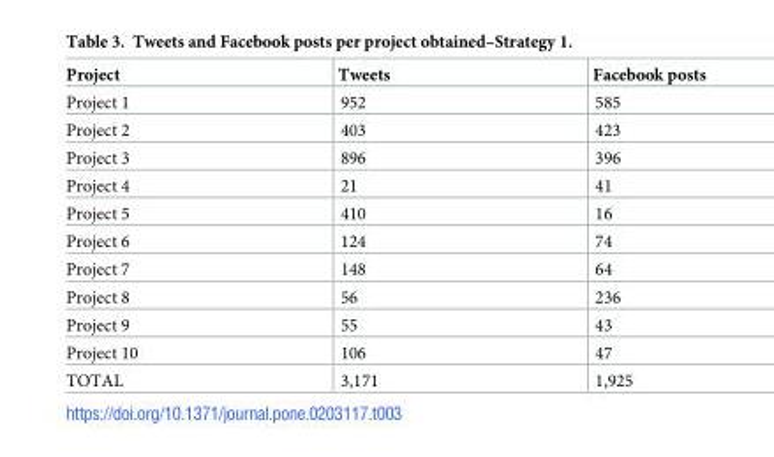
<table><thead><tr><td>Project</td><td>Tweets</td><td>Facebook posts</td></tr></thead><tbody><tr><td>Project 1</td><td>952</td><td>585</td></tr><tr><td>Project 2</td><td>403</td><td>423</td></tr><tr><td>Project 3</td><td>896</td><td>396</td></tr><tr><td>Project 4</td><td>21</td><td>41</td></tr><tr><td>Project 5</td><td>410</td><td>16</td></tr><tr><td>Project 6</td><td>124</td><td>74</td></tr><tr><td>Project 7</td><td>148</td><td>64</td></tr><tr><td>Project 8</td><td>56</td><td>236</td></tr><tr><td>Project 9</td><td>55</td><td>43</td></tr><tr><td>Project 10</td><td>106</td><td>47</td></tr><tr><td>TOTAL</td><td>3,171</td><td>1,925</td></tr></tbody></table>